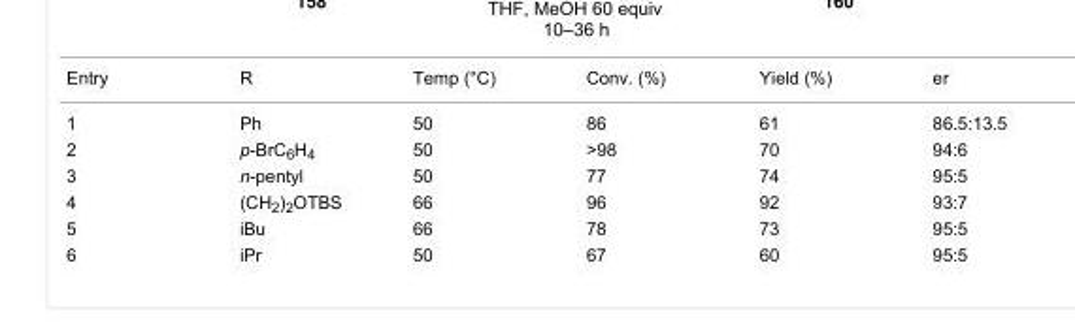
<table><tbody><tr><td>Entry</td><td>R</td><td>Temp (°C)</td><td>Conv. (%)</td><td>Yield (%)</td><td>er</td></tr><tr><td>1</td><td>Ph</td><td>50</td><td>86</td><td>61</td><td>86.5:13.5</td></tr><tr><td>2</td><td>p-BrC<sub>6</sub>H<sub>4</sub></td><td>50</td><td>&gt;98</td><td>70</td><td>94:6</td></tr><tr><td>3</td><td>n-pentyl</td><td>50</td><td>77</td><td>74</td><td>95:5</td></tr><tr><td>4</td><td>(CH<sub>2</sub>)<sub>2</sub>OTBS</td><td>66</td><td>96</td><td>92</td><td>93:7</td></tr><tr><td>5</td><td>iBu</td><td>66</td><td>78</td><td>73</td><td>95:5</td></tr><tr><td>6</td><td>iPr</td><td>50</td><td>67</td><td>60</td><td>95:5</td></tr></tbody></table>